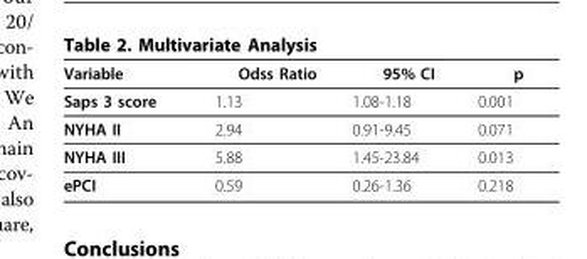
<table><thead><tr><td>Variable</td><td>Odss Ratio</td><td>95% CI</td><td>p</td></tr></thead><tbody><tr><td>Saps 3 score</td><td>1.13</td><td>1.08-1.18</td><td>0.001</td></tr><tr><td>NYHA II</td><td>2.94</td><td>0.91-9.45</td><td>0.071</td></tr><tr><td>NYHA III</td><td>5.88</td><td>1.45-23.84</td><td>0.013</td></tr><tr><td>ePCI</td><td>0.59</td><td>0.26-1.36</td><td>0.218</td></tr></tbody></table>